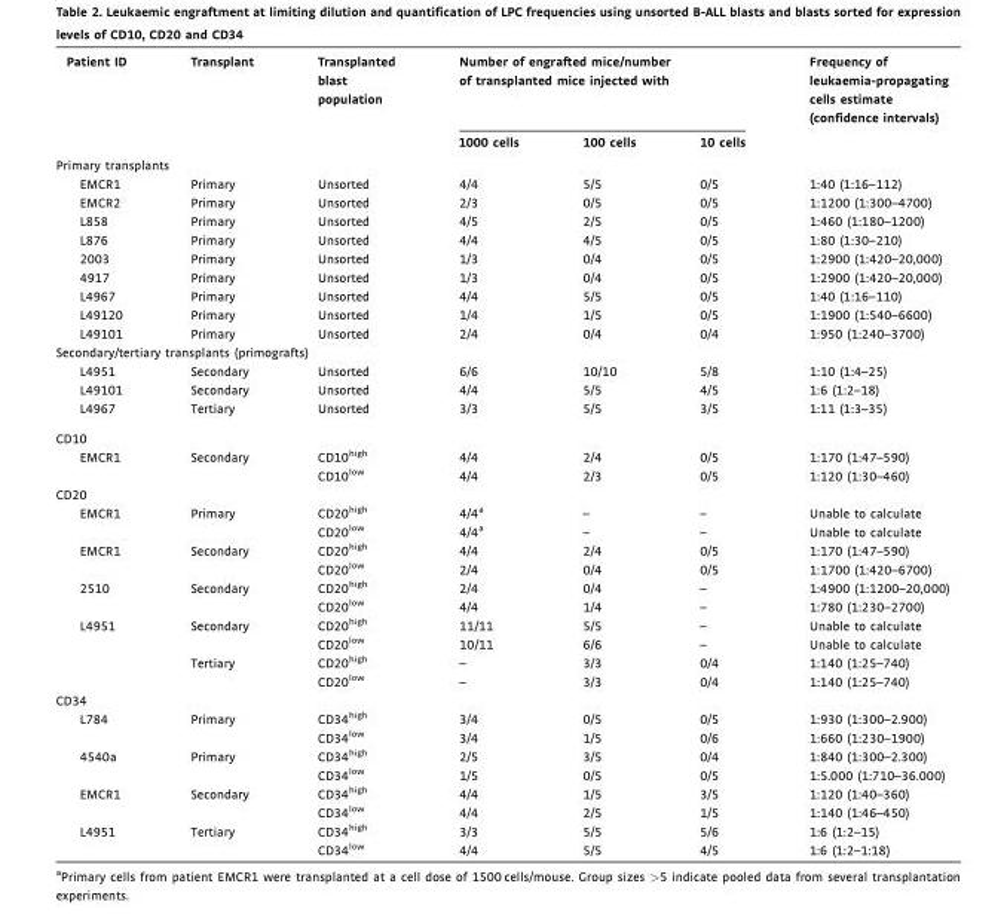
<table><thead><tr><td rowspan="2">Patient ID</td><td rowspan="2">Transplant</td><td rowspan="2">Transplanted blast population</td><td colspan="3">Number of engrafted mice/number of transplanted mice injected with</td><td rowspan="2">Frequency of leukaemia-propagating cells estimate (confidence intervals)</td></tr><tr><td>1000 cells</td><td>100 cells</td><td>10 cells</td></tr></thead><tbody><tr><td colspan="7">Primary transplants</td></tr><tr><td>EMCR1</td><td>Primary</td><td>Unsorted</td><td>4/4</td><td>5/5</td><td>0/5</td><td>1:40 (1:16–112)</td></tr><tr><td>EMCR2</td><td>Primary</td><td>Unsorted</td><td>2/3</td><td>0/5</td><td>0/5</td><td>1:1200 (1:300–4700)</td></tr><tr><td>L858</td><td>Primary</td><td>Unsorted</td><td>4/5</td><td>2/5</td><td>0/5</td><td>1:460 (1:180–1200)</td></tr><tr><td>L876</td><td>Primary</td><td>Unsorted</td><td>4/4</td><td>4/5</td><td>0/5</td><td>1:80 (1:30–210)</td></tr><tr><td>2003</td><td>Primary</td><td>Unsorted</td><td>1/3</td><td>0/4</td><td>0/5</td><td>1:2900 (1:420–20,000)</td></tr><tr><td>4917</td><td>Primary</td><td>Unsorted</td><td>1/3</td><td>0/4</td><td>0/5</td><td>1:2900 (1:420–20,000)</td></tr><tr><td>L4967</td><td>Primary</td><td>Unsorted</td><td>4/4</td><td>5/5</td><td>0/5</td><td>1:40 (1:16–110)</td></tr><tr><td>L49120</td><td>Primary</td><td>Unsorted</td><td>1/4</td><td>1/5</td><td>0/5</td><td>1:1900 (1:540–6600)</td></tr><tr><td>L49101</td><td>Primary</td><td>Unsorted</td><td>2/4</td><td>0/4</td><td>0/4</td><td>1:950 (1:240–3700)</td></tr><tr><td colspan="7">Secondary/tertiary transplants (primografts)</td></tr><tr><td>L4951</td><td>Secondary</td><td>Unsorted</td><td>6/6</td><td>10/10</td><td>5/8</td><td>1:10 (1:4–25)</td></tr><tr><td>L49101</td><td>Secondary</td><td>Unsorted</td><td>4/4</td><td>5/5</td><td>4/5</td><td>1:6 (1:2–18)</td></tr><tr><td>L4967</td><td>Tertiary</td><td>Unsorted</td><td>3/3</td><td>5/5</td><td>3/5</td><td>1:11 (1:3–35)</td></tr><tr><td colspan="7">CD10</td></tr><tr><td rowspan="2">EMCR1</td><td rowspan="2">Secondary</td><td>CD10<sup>high</sup></td><td>4/4</td><td>2/4</td><td>0/5</td><td>1:170 (1:47–590)</td></tr><tr><td>CD10<sup>low</sup></td><td>4/4</td><td>2/3</td><td>0/5</td><td>1:120 (1:30–460)</td></tr><tr><td colspan="7">CD20</td></tr><tr><td rowspan="2">EMCR1</td><td rowspan="2">Primary</td><td>CD20<sup>high</sup></td><td>4/4<sup>a</sup></td><td>–</td><td>–</td><td>Unable to calculate</td></tr><tr><td>CD20<sup>low</sup></td><td>4/4<sup>a</sup></td><td>–</td><td>–</td><td>Unable to calculate</td></tr><tr><td rowspan="2">EMCR1</td><td rowspan="2">Secondary</td><td>CD20<sup>high</sup></td><td>4/4</td><td>2/4</td><td>0/5</td><td>1:170 (1:47–590)</td></tr><tr><td>CD20<sup>low</sup></td><td>2/4</td><td>0/4</td><td>0/5</td><td>1:1700 (1:420–6700)</td></tr><tr><td rowspan="2">2510</td><td rowspan="2">Secondary</td><td>CD20<sup>high</sup></td><td>2/4</td><td>0/4</td><td>–</td><td>1:4900 (1:1200–20,000)</td></tr><tr><td>CD20<sup>low</sup></td><td>4/4</td><td>1/4</td><td>–</td><td>1:780 (1:230–2700)</td></tr><tr><td rowspan="4">L4951</td><td rowspan="2">Secondary</td><td>CD20<sup>high</sup></td><td>11/11</td><td>5/5</td><td>–</td><td>Unable to calculate</td></tr><tr><td>CD20<sup>low</sup></td><td>10/11</td><td>6/6</td><td>–</td><td>Unable to calculate</td></tr><tr><td rowspan="2">Tertiary</td><td>CD20<sup>high</sup></td><td>–</td><td>3/3</td><td>0/4</td><td>1:140 (1:25–740)</td></tr><tr><td>CD20<sup>low</sup></td><td>–</td><td>3/3</td><td>0/4</td><td>1:140 (1:25–740)</td></tr><tr><td colspan="7">CD34</td></tr><tr><td rowspan="2">L784</td><td rowspan="2">Primary</td><td>CD34<sup>high</sup></td><td>3/4</td><td>0/5</td><td>0/5</td><td>1:930 (1:300–2.900)</td></tr><tr><td>CD34<sup>low</sup></td><td>3/4</td><td>1/5</td><td>0/6</td><td>1:660 (1:230–1900)</td></tr><tr><td rowspan="2">4540a</td><td rowspan="2">Primary</td><td>CD34<sup>high</sup></td><td>2/5</td><td>3/5</td><td>0/4</td><td>1:840 (1:300–2.300)</td></tr><tr><td>CD34<sup>low</sup></td><td>1/5</td><td>0/5</td><td>0/5</td><td>1:5.000 (1:710–36.000)</td></tr><tr><td rowspan="2">EMCR1</td><td rowspan="2">Secondary</td><td>CD34<sup>high</sup></td><td>4/4</td><td>1/5</td><td>3/5</td><td>1:120 (1:40–360)</td></tr><tr><td>CD34<sup>low</sup></td><td>4/4</td><td>2/5</td><td>1/5</td><td>1:140 (1:46–450)</td></tr><tr><td rowspan="2">L4951</td><td rowspan="2">Tertiary</td><td>CD34<sup>high</sup></td><td>3/3</td><td>5/5</td><td>5/6</td><td>1:6 (1:2–15)</td></tr><tr><td>CD34<sup>low</sup></td><td>4/4</td><td>5/5</td><td>4/5</td><td>1:6 (1:2–1:18)</td></tr></tbody></table>